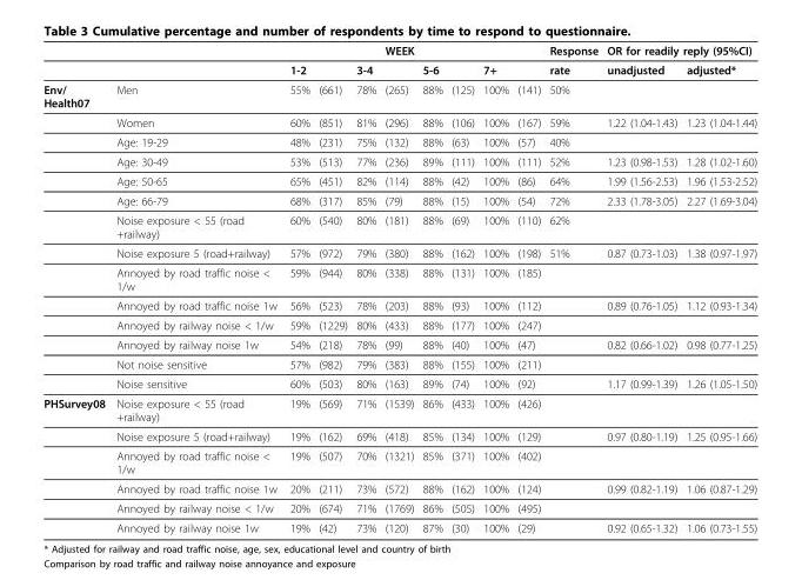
<table><thead><tr><td rowspan="2"></td><td rowspan="2"></td><td rowspan="2">1-2</td><td rowspan="2"></td><td rowspan="2">3-4</td><td colspan="2">WEEK</td><td rowspan="2"></td><td rowspan="2">7+</td><td rowspan="2"></td><td rowspan="2">Response rate</td><td colspan="2">OR for readily reply (95%CI)</td></tr><tr><td></td><td>5-6</td><td>unadjusted</td><td>adjusted*</td></tr></thead><tbody><tr><td rowspan="14">Env/ Health07</td><td>Men</td><td>55%</td><td>(661)</td><td>78%</td><td>(265)</td><td>88%</td><td>(125)</td><td>100%</td><td>(141)</td><td>50%</td><td></td><td></td></tr><tr><td>Women</td><td>60%</td><td>(851)</td><td>81%</td><td>(296)</td><td>88%</td><td>(106)</td><td>100%</td><td>(167)</td><td>59%</td><td>1.22 (1.04-1.43)</td><td>1.23 (1.04-1.44)</td></tr><tr><td>Age: 19-29</td><td>48%</td><td>(231)</td><td>75%</td><td>(132)</td><td>88%</td><td>(63)</td><td>100%</td><td>(57)</td><td>40%</td><td></td><td></td></tr><tr><td>Age: 30-49</td><td>53%</td><td>(513)</td><td>77%</td><td>(236)</td><td>89%</td><td>(111)</td><td>100%</td><td>(111)</td><td>52%</td><td>1.23 (0.98-1.53)</td><td>1.28 (1.02-1.60)</td></tr><tr><td>Age: 50-65</td><td>65%</td><td>(451)</td><td>82%</td><td>(114)</td><td>88%</td><td>(42)</td><td>100%</td><td>(86)</td><td>64%</td><td>1.99 (1.56-2.53)</td><td>1.96 (1.53-2.52)</td></tr><tr><td>Age: 66-79</td><td>68%</td><td>(317)</td><td>85%</td><td>(79)</td><td>88%</td><td>(15)</td><td>100%</td><td>(54)</td><td>72%</td><td>2.33 (1.78-3.05)</td><td>2.27 (1.69-3.04)</td></tr><tr><td>Noise exposure &lt; 55 (road +railway)</td><td>60%</td><td>(540)</td><td>80%</td><td>(181)</td><td>88%</td><td>(69)</td><td>100%</td><td>(110)</td><td>62%</td><td></td><td></td></tr><tr><td>Noise exposure 5 (road+railway)</td><td>57%</td><td>(972)</td><td>79%</td><td>(380)</td><td>88%</td><td>(162)</td><td>100%</td><td>(198)</td><td>51%</td><td>0.87 (0.73-1.03)</td><td>1.38 (0.97-1.97)</td></tr><tr><td>Annoyed by road traffic noise &lt; 1/w</td><td>59%</td><td>(944)</td><td>80%</td><td>(338)</td><td>88%</td><td>(131)</td><td>100%</td><td>(185)</td><td></td><td></td><td></td></tr><tr><td>Annoyed by road traffic noise 1w</td><td>56%</td><td>(523)</td><td>78%</td><td>(203)</td><td>88%</td><td>(93)</td><td>100%</td><td>(112)</td><td></td><td>0.89 (0.76-1.05)</td><td>1.12 (0.93-1.34)</td></tr><tr><td>Annoyed by railway noise &lt; 1/w</td><td>59%</td><td>(1229)</td><td>80%</td><td>(433)</td><td>88%</td><td>(177)</td><td>100%</td><td>(247)</td><td></td><td></td><td></td></tr><tr><td>Annoyed by railway noise 1w</td><td>54%</td><td>(218)</td><td>78%</td><td>(99)</td><td>88%</td><td>(40)</td><td>100%</td><td>(47)</td><td></td><td>0.82 (0.66-1.02)</td><td>0.98 (0.77-1.25)</td></tr><tr><td>Not noise sensitive</td><td>57%</td><td>(982)</td><td>79%</td><td>(383)</td><td>88%</td><td>(155)</td><td>100%</td><td>(211)</td><td></td><td></td><td></td></tr><tr><td>Noise sensitive</td><td>60%</td><td>(503)</td><td>80%</td><td>(163)</td><td>89%</td><td>(74)</td><td>100%</td><td>(92)</td><td></td><td>1.17 (0.99-1.39)</td><td>1.26 (1.05-1.50)</td></tr><tr><td rowspan="6">PHSurvey08</td><td>Noise exposure &lt; 55 (road +railway)</td><td>19%</td><td>(569)</td><td>71%</td><td>(1539)</td><td>86%</td><td>(433)</td><td>100%</td><td>(426)</td><td></td><td></td><td></td></tr><tr><td>Noise exposure 5 (road+railway)</td><td>19%</td><td>(162)</td><td>69%</td><td>(418)</td><td>85%</td><td>(134)</td><td>100%</td><td>(129)</td><td></td><td>0.97 (0.80-1.19)</td><td>1.25 (0.95-1.66)</td></tr><tr><td>Annoyed by road traffic noise &lt; 1/w</td><td>19%</td><td>(507)</td><td>70%</td><td>(1321)</td><td>85%</td><td>(371)</td><td>100%</td><td>(402)</td><td></td><td></td><td></td></tr><tr><td>Annoyed by road traffic noise 1w</td><td>20%</td><td>(211)</td><td>73%</td><td>(572)</td><td>88%</td><td>(162)</td><td>100%</td><td>(124)</td><td></td><td>0.99 (0.82-1.19)</td><td>1.06 (0.87-1.29)</td></tr><tr><td>Annoyed by railway noise &lt; 1/w</td><td>20%</td><td>(674)</td><td>71%</td><td>(1769)</td><td>86%</td><td>(505)</td><td>100%</td><td>(495)</td><td></td><td></td><td></td></tr><tr><td>Annoyed by railway noise 1w</td><td>19%</td><td>(42)</td><td>73%</td><td>(120)</td><td>87%</td><td>(30)</td><td>100%</td><td>(29)</td><td></td><td>0.92 (0.65-1.32)</td><td>1.06 (0.73-1.55)</td></tr></tbody></table>